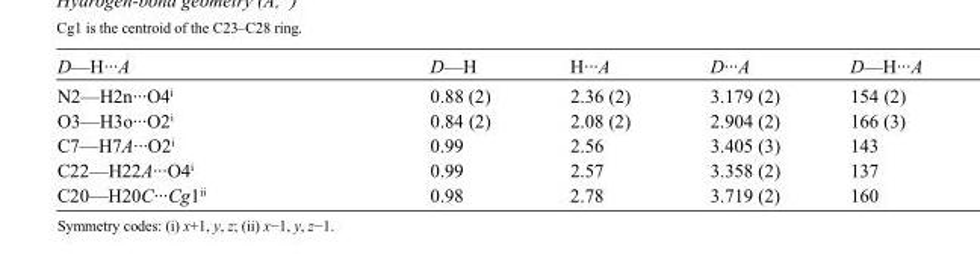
<table><tbody><tr><td>D—H···A</td><td>D—H</td><td>H···A</td><td>D···A</td><td>D—H···A</td></tr><tr><td>N2—H2n···O4<sup>i</sup></td><td>0.88 (2)</td><td>2.36 (2)</td><td>3.179 (2)</td><td>154 (2)</td></tr><tr><td>O3—H3o···O2<sup>i</sup></td><td>0.84 (2)</td><td>2.08 (2)</td><td>2.904 (2)</td><td>166 (3)</td></tr><tr><td>C7—H7A···O2<sup>i</sup></td><td>0.99</td><td>2.56</td><td>3.405 (3)</td><td>143</td></tr><tr><td>C22—H22A···O4<sup>i</sup></td><td>0.99</td><td>2.57</td><td>3.358 (2)</td><td>137</td></tr><tr><td>C20—H20C···Cg1<sup>ii</sup></td><td>0.98</td><td>2.78</td><td>3.719 (2)</td><td>160</td></tr></tbody></table>